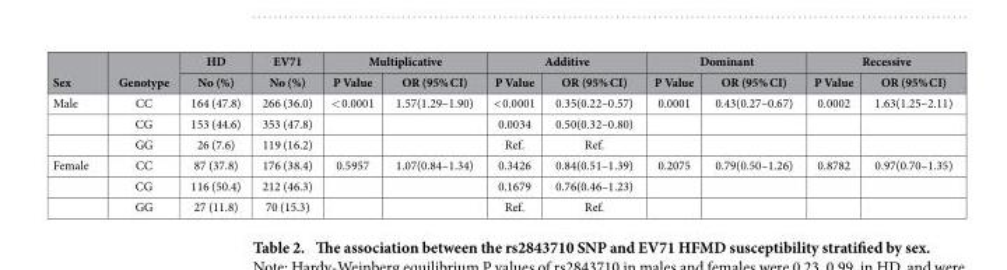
<table><thead><tr><td rowspan="2">Sex</td><td rowspan="2">Genotype</td><td rowspan="2">HD No (%)</td><td rowspan="2">EV71 No (%)</td><td colspan="2">Multiplicative</td><td colspan="2">Additive</td><td colspan="2">Dominant</td><td colspan="2">Recessive</td></tr><tr><td>P Value</td><td>OR (95% CI)</td><td>P Value</td><td>OR (95% CI)</td><td>P Value</td><td>OR (95% CI)</td><td>P Value</td><td>OR (95% CI)</td></tr></thead><tbody><tr><td rowspan="3">Male</td><td>CC</td><td>164 (47.8)</td><td>266 (36.0)</td><td>&lt; 0.0001</td><td>1.57(1.29–1.90)</td><td>&lt; 0.0001</td><td>0.35(0.22–0.57)</td><td>0.0001</td><td>0.43(0.27–0.67)</td><td>0.0002</td><td>1.63(1.25–2.11)</td></tr><tr><td>CG</td><td>153 (44.6)</td><td>353 (47.8)</td><td></td><td></td><td>0.0034</td><td>0.50(0.32–0.80)</td><td></td><td></td><td></td><td></td></tr><tr><td>GG</td><td>26 (7.6)</td><td>119 (16.2)</td><td></td><td></td><td>Ref.</td><td>Ref.</td><td></td><td></td><td></td><td></td></tr><tr><td rowspan="3">Female</td><td>CC</td><td>87 (37.8)</td><td>176 (38.4)</td><td>0.5957</td><td>1.07(0.84–1.34)</td><td>0.3426</td><td>0.84(0.51–1.39)</td><td>0.2075</td><td>0.79(0.50–1.26)</td><td>0.8782</td><td>0.97(0.70–1.35)</td></tr><tr><td>CG</td><td>116 (50.4)</td><td>212 (46.3)</td><td></td><td></td><td>0.1679</td><td>0.76(0.46–1.23)</td><td></td><td></td><td></td><td></td></tr><tr><td>GG</td><td>27 (11.8)</td><td>70 (15.3)</td><td></td><td></td><td>Ref.</td><td>Ref.</td><td></td><td></td><td></td><td></td></tr></tbody></table>